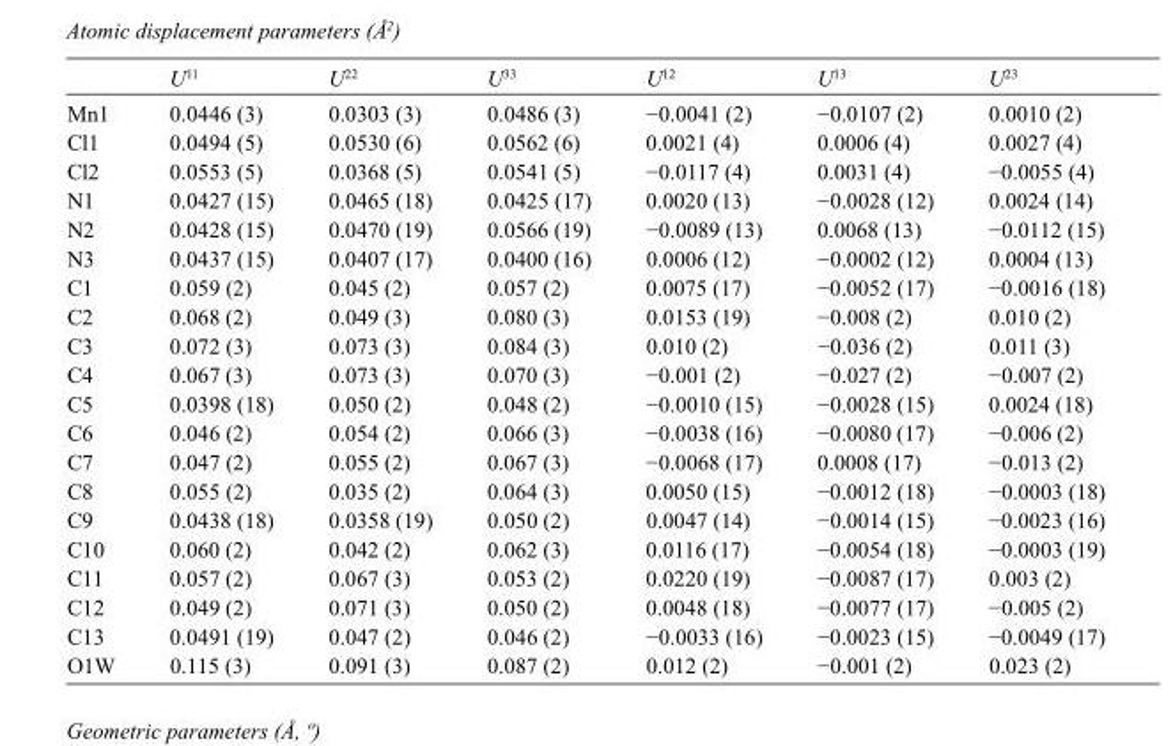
<table><thead><tr><td></td><td>U<sup>11</sup></td><td>U<sup>22</sup></td><td>U<sup>33</sup></td><td>U<sup>12</sup></td><td>U<sup>13</sup></td><td>U<sup>23</sup></td></tr></thead><tbody><tr><td>Mn1</td><td>0.0446 (3)</td><td>0.0303 (3)</td><td>0.0486 (3)</td><td>−0.0041 (2)</td><td>−0.0107 (2)</td><td>0.0010 (2)</td></tr><tr><td>Cl1</td><td>0.0494 (5)</td><td>0.0530 (6)</td><td>0.0562 (6)</td><td>0.0021 (4)</td><td>0.0006 (4)</td><td>0.0027 (4)</td></tr><tr><td>Cl2</td><td>0.0553 (5)</td><td>0.0368 (5)</td><td>0.0541 (5)</td><td>−0.0117 (4)</td><td>0.0031 (4)</td><td>−0.0055 (4)</td></tr><tr><td>N1</td><td>0.0427 (15)</td><td>0.0465 (18)</td><td>0.0425 (17)</td><td>0.0020 (13)</td><td>−0.0028 (12)</td><td>0.0024 (14)</td></tr><tr><td>N2</td><td>0.0428 (15)</td><td>0.0470 (19)</td><td>0.0566 (19)</td><td>−0.0089 (13)</td><td>0.0068 (13)</td><td>−0.0112 (15)</td></tr><tr><td>N3</td><td>0.0437 (15)</td><td>0.0407 (17)</td><td>0.0400 (16)</td><td>0.0006 (12)</td><td>−0.0002 (12)</td><td>0.0004 (13)</td></tr><tr><td>C1</td><td>0.059 (2)</td><td>0.045 (2)</td><td>0.057 (2)</td><td>0.0075 (17)</td><td>−0.0052 (17)</td><td>−0.0016 (18)</td></tr><tr><td>C2</td><td>0.068 (2)</td><td>0.049 (3)</td><td>0.080 (3)</td><td>0.0153 (19)</td><td>−0.008 (2)</td><td>0.010 (2)</td></tr><tr><td>C3</td><td>0.072 (3)</td><td>0.073 (3)</td><td>0.084 (3)</td><td>0.010 (2)</td><td>−0.036 (2)</td><td>0.011 (3)</td></tr><tr><td>C4</td><td>0.067 (3)</td><td>0.073 (3)</td><td>0.070 (3)</td><td>−0.001 (2)</td><td>−0.027 (2)</td><td>−0.007 (2)</td></tr><tr><td>C5</td><td>0.0398 (18)</td><td>0.050 (2)</td><td>0.048 (2)</td><td>−0.0010 (15)</td><td>−0.0028 (15)</td><td>0.0024 (18)</td></tr><tr><td>C6</td><td>0.046 (2)</td><td>0.054 (2)</td><td>0.066 (3)</td><td>−0.0038 (16)</td><td>−0.0080 (17)</td><td>−0.006 (2)</td></tr><tr><td>C7</td><td>0.047 (2)</td><td>0.055 (2)</td><td>0.067 (3)</td><td>−0.0068 (17)</td><td>0.0008 (17)</td><td>−0.013 (2)</td></tr><tr><td>C8</td><td>0.055 (2)</td><td>0.035 (2)</td><td>0.064 (3)</td><td>0.0050 (15)</td><td>−0.0012 (18)</td><td>−0.0003 (18)</td></tr><tr><td>C9</td><td>0.0438 (18)</td><td>0.0358 (19)</td><td>0.050 (2)</td><td>0.0047 (14)</td><td>−0.0014 (15)</td><td>−0.0023 (16)</td></tr><tr><td>C10</td><td>0.060 (2)</td><td>0.042 (2)</td><td>0.062 (3)</td><td>0.0116 (17)</td><td>−0.0054 (18)</td><td>−0.0003 (19)</td></tr><tr><td>C11</td><td>0.057 (2)</td><td>0.067 (3)</td><td>0.053 (2)</td><td>0.0220 (19)</td><td>−0.0087 (17)</td><td>0.003 (2)</td></tr><tr><td>C12</td><td>0.049 (2)</td><td>0.071 (3)</td><td>0.050 (2)</td><td>0.0048 (18)</td><td>−0.0077 (17)</td><td>−0.005 (2)</td></tr><tr><td>C13</td><td>0.0491 (19)</td><td>0.047 (2)</td><td>0.046 (2)</td><td>−0.0033 (16)</td><td>−0.0023 (15)</td><td>−0.0049 (17)</td></tr><tr><td>O1W</td><td>0.115 (3)</td><td>0.091 (3)</td><td>0.087 (2)</td><td>0.012 (2)</td><td>−0.001 (2)</td><td>0.023 (2)</td></tr></tbody></table>